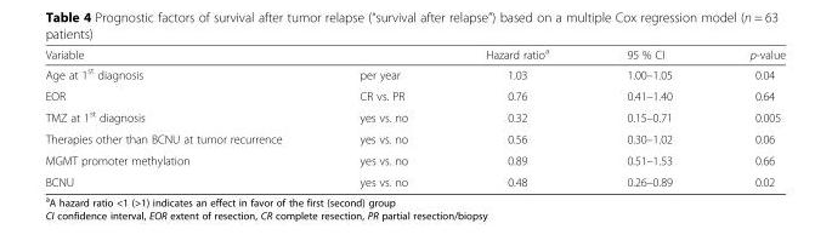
<table><thead><tr><td>Variable</td><td></td><td>Hazard ratio<sup>a</sup></td><td>95 % CI</td><td>p-value</td></tr></thead><tbody><tr><td>Age at 1<sup>st</sup> diagnosis</td><td>per year</td><td>1.03</td><td>1.00–1.05</td><td>0.04</td></tr><tr><td>EOR</td><td>CR vs. PR</td><td>0.76</td><td>0.41–1.40</td><td>0.64</td></tr><tr><td>TMZ at 1<sup>st</sup> diagnosis</td><td>yes vs. no</td><td>0.32</td><td>0.15–0.71</td><td>0.005</td></tr><tr><td>Therapies other than BCNU at tumor recurrence</td><td>yes vs. no</td><td>0.56</td><td>0.30–1.02</td><td>0.06</td></tr><tr><td>MGMT promoter methylation</td><td>yes vs. no</td><td>0.89</td><td>0.51–1.53</td><td>0.66</td></tr><tr><td>BCNU</td><td>yes vs. no</td><td>0.48</td><td>0.26–0.89</td><td>0.02</td></tr></tbody></table>